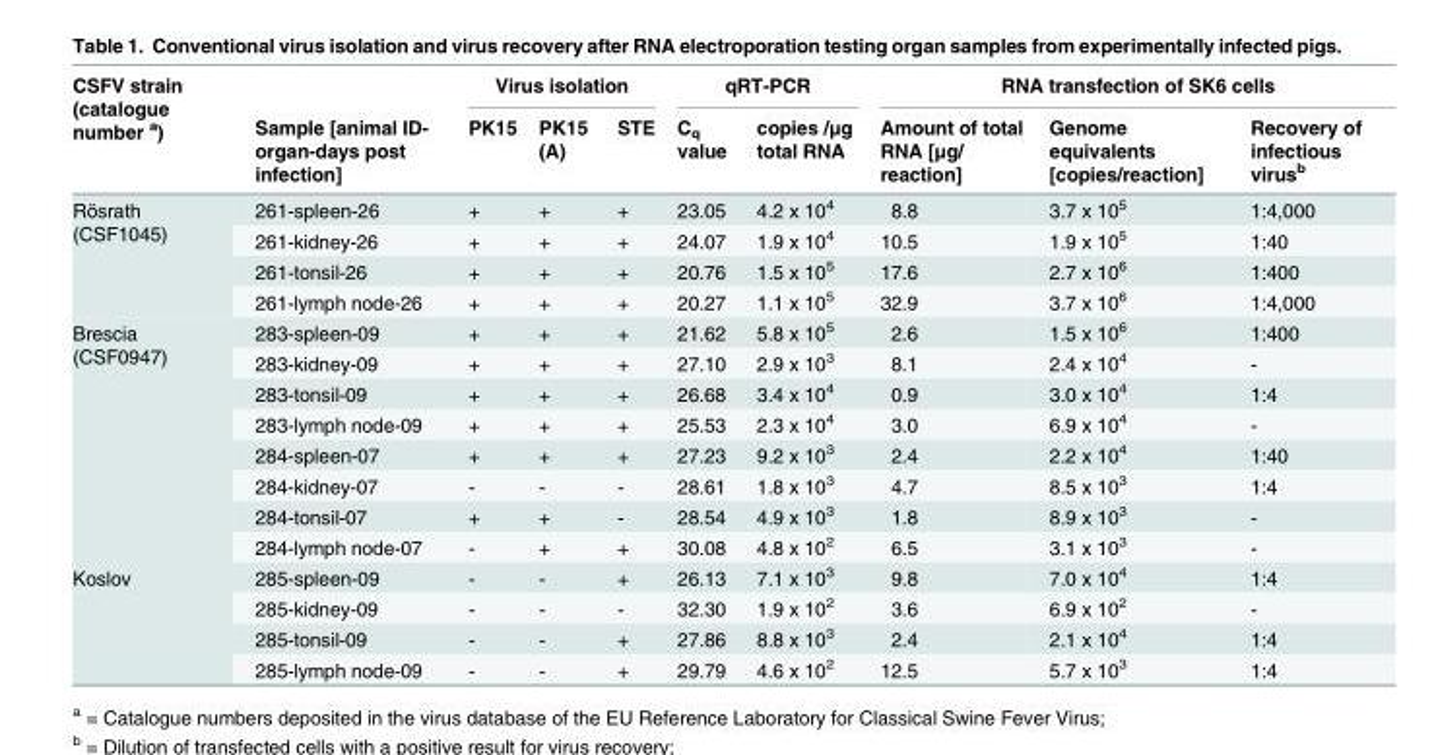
<table><thead><tr><td rowspan="2">CSFV strain (catalogue number <sup>a</sup>)</td><td rowspan="2">Sample [animal ID- organ-days post infection]</td><td colspan="3">Virus isolation</td><td colspan="2">qRT-PCR</td><td colspan="3">RNA transfection of SK6 cells</td></tr><tr><td>PK15</td><td>PK15 (A)</td><td>STE</td><td>C<sub>q</sub> value</td><td>copies /μg total RNA</td><td>Amount of total RNA [μg/ reaction]</td><td>Genome equivalents [copies/reaction]</td><td>Recovery of infectious virus<sup>b</sup></td></tr></thead><tbody><tr><td rowspan="4">Rösrath (CSF1045)</td><td>261-spleen-26</td><td>+</td><td>+</td><td>+</td><td>23.05</td><td>4.2 x 10<sup>4</sup></td><td>8.8</td><td>3.7 x 10<sup>5</sup></td><td>1:4,000</td></tr><tr><td>261-kidney-26</td><td>+</td><td>+</td><td>+</td><td>24.07</td><td>1.9 x 10<sup>4</sup></td><td>10.5</td><td>1.9 x 10<sup>5</sup></td><td>1:40</td></tr><tr><td>261-tonsil-26</td><td>+</td><td>+</td><td>+</td><td>20.76</td><td>1.5 x 10<sup>5</sup></td><td>17.6</td><td>2.7 x 10<sup>6</sup></td><td>1:400</td></tr><tr><td>261-lymph node-26</td><td>+</td><td>+</td><td>+</td><td>20.27</td><td>1.1 x 10<sup>5</sup></td><td>32.9</td><td>3.7 x 10<sup>6</sup></td><td>1:4,000</td></tr><tr><td rowspan="8">Brescia (CSF0947)</td><td>283-spleen-09</td><td>+</td><td>+</td><td>+</td><td>21.62</td><td>5.8 x 10<sup>5</sup></td><td>2.6</td><td>1.5 x 10<sup>6</sup></td><td>1:400</td></tr><tr><td>283-kidney-09</td><td>+</td><td>+</td><td>+</td><td>27.10</td><td>2.9 x 10<sup>3</sup></td><td>8.1</td><td>2.4 x 10<sup>4</sup></td><td>-</td></tr><tr><td>283-tonsil-09</td><td>+</td><td>+</td><td>+</td><td>26.68</td><td>3.4 x 10<sup>4</sup></td><td>0.9</td><td>3.0 x 10<sup>4</sup></td><td>1:4</td></tr><tr><td>283-lymph node-09</td><td>+</td><td>+</td><td>+</td><td>25.53</td><td>2.3 x 10<sup>4</sup></td><td>3.0</td><td>6.9 x 10<sup>4</sup></td><td>-</td></tr><tr><td>284-spleen-07</td><td>+</td><td>+</td><td>+</td><td>27.23</td><td>9.2 x 10<sup>3</sup></td><td>2.4</td><td>2.2 x 10<sup>4</sup></td><td>1:40</td></tr><tr><td>284-kidney-07</td><td>-</td><td>-</td><td>-</td><td>28.61</td><td>1.8 x 10<sup>3</sup></td><td>4.7</td><td>8.5 x 10<sup>3</sup></td><td>1:4</td></tr><tr><td>284-tonsil-07</td><td>+</td><td>+</td><td>-</td><td>28.54</td><td>4.9 x 10<sup>3</sup></td><td>1.8</td><td>8.9 x 10<sup>3</sup></td><td>-</td></tr><tr><td>284-lymph node-07</td><td>-</td><td>+</td><td>+</td><td>30.08</td><td>4.8 x 10<sup>2</sup></td><td>6.5</td><td>3.1 x 10<sup>3</sup></td><td>-</td></tr><tr><td rowspan="4">Koslov</td><td>285-spleen-09</td><td>-</td><td>-</td><td>+</td><td>26.13</td><td>7.1 x 10<sup>3</sup></td><td>9.8</td><td>7.0 x 10<sup>4</sup></td><td>1:4</td></tr><tr><td>285-kidney-09</td><td>-</td><td>-</td><td>-</td><td>32.30</td><td>1.9 x 10<sup>2</sup></td><td>3.6</td><td>6.9 x 10<sup>2</sup></td><td>-</td></tr><tr><td>285-tonsil-09</td><td>-</td><td>-</td><td>+</td><td>27.86</td><td>8.8 x 10<sup>3</sup></td><td>2.4</td><td>2.1 x 10<sup>4</sup></td><td>1:4</td></tr><tr><td>285-lymph node-09</td><td>-</td><td>-</td><td>+</td><td>29.79</td><td>4.6 x 10<sup>2</sup></td><td>12.5</td><td>5.7 x 10<sup>3</sup></td><td>1:4</td></tr></tbody></table>